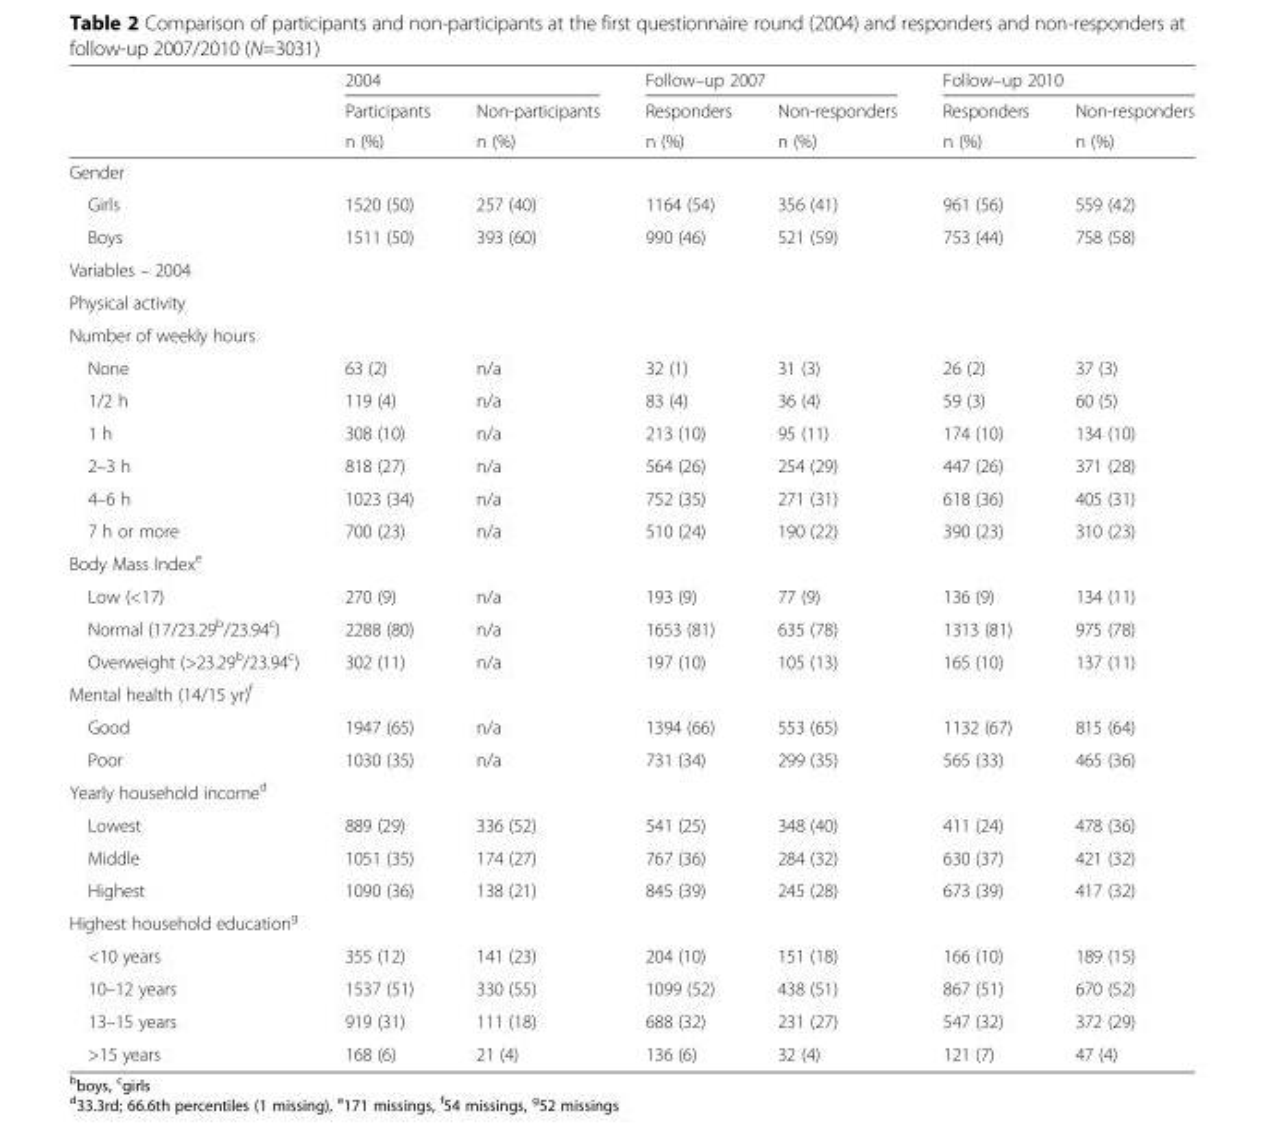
<table><thead><tr><td rowspan="3"></td><td colspan="2">2004</td><td colspan="2">Follow–up 2007</td><td colspan="2">Follow–up 2010</td></tr><tr><td rowspan="2">Participants n (%)</td><td rowspan="2">Non-participants n (%)</td><td rowspan="2">Responders n (%)</td><td rowspan="2">Non-responders n (%)</td><td rowspan="2">Responders n (%)</td><td rowspan="2">Non-responders n (%)</td></tr><tr></tr></thead><tbody><tr><td colspan="7">Gender</td></tr><tr><td>Girls</td><td>1520 (50)</td><td>257 (40)</td><td>1164 (54)</td><td>356 (41)</td><td>961 (56)</td><td>559 (42)</td></tr><tr><td>Boys</td><td>1511 (50)</td><td>393 (60)</td><td>990 (46)</td><td>521 (59)</td><td>753 (44)</td><td>758 (58)</td></tr><tr><td colspan="7">Variables – 2004</td></tr><tr><td colspan="7">Physical activity</td></tr><tr><td colspan="7">Number of weekly hours</td></tr><tr><td>None</td><td>63 (2)</td><td>n/a</td><td>32 (1)</td><td>31 (3)</td><td>26 (2)</td><td>37 (3)</td></tr><tr><td>1/2 h</td><td>119 (4)</td><td>n/a</td><td>83 (4)</td><td>36 (4)</td><td>59 (3)</td><td>60 (5)</td></tr><tr><td>1 h</td><td>308 (10)</td><td>n/a</td><td>213 (10)</td><td>95 (11)</td><td>174 (10)</td><td>134 (10)</td></tr><tr><td>2–3 h</td><td>818 (27)</td><td>n/a</td><td>564 (26)</td><td>254 (29)</td><td>447 (26)</td><td>371 (28)</td></tr><tr><td>4–6 h</td><td>1023 (34)</td><td>n/a</td><td>752 (35)</td><td>271 (31)</td><td>618 (36)</td><td>405 (31)</td></tr><tr><td>7 h or more</td><td>700 (23)</td><td>n/a</td><td>510 (24)</td><td>190 (22)</td><td>390 (23)</td><td>310 (23)</td></tr><tr><td colspan="7">Body Mass Index<sup>e</sup></td></tr><tr><td>Low (&lt;17)</td><td>270 (9)</td><td>n/a</td><td>193 (9)</td><td>77 (9)</td><td>136 (9)</td><td>134 (11)</td></tr><tr><td>Normal (17/23.29<sup>b</sup>/23.94<sup>c</sup>)</td><td>2288 (80)</td><td>n/a</td><td>1653 (81)</td><td>635 (78)</td><td>1313 (81)</td><td>975 (78)</td></tr><tr><td>Overweight (&gt;23.29<sup>b</sup>/23.94<sup>c</sup>)</td><td>302 (11)</td><td>n/a</td><td>197 (10)</td><td>105 (13)</td><td>165 (10)</td><td>137 (11)</td></tr><tr><td colspan="7">Mental health (14/15 yr)<sup>f</sup></td></tr><tr><td>Good</td><td>1947 (65)</td><td>n/a</td><td>1394 (66)</td><td>553 (65)</td><td>1132 (67)</td><td>815 (64)</td></tr><tr><td>Poor</td><td>1030 (35)</td><td>n/a</td><td>731 (34)</td><td>299 (35)</td><td>565 (33)</td><td>465 (36)</td></tr><tr><td colspan="7">Yearly household income<sup>d</sup></td></tr><tr><td>Lowest</td><td>889 (29)</td><td>336 (52)</td><td>541 (25)</td><td>348 (40)</td><td>411 (24)</td><td>478 (36)</td></tr><tr><td>Middle</td><td>1051 (35)</td><td>174 (27)</td><td>767 (36)</td><td>284 (32)</td><td>630 (37)</td><td>421 (32)</td></tr><tr><td>Highest</td><td>1090 (36)</td><td>138 (21)</td><td>845 (39)</td><td>245 (28)</td><td>673 (39)</td><td>417 (32)</td></tr><tr><td colspan="7">Highest household education<sup>g</sup></td></tr><tr><td>&lt;10 years</td><td>355 (12)</td><td>141 (23)</td><td>204 (10)</td><td>151 (18)</td><td>166 (10)</td><td>189 (15)</td></tr><tr><td>10–12 years</td><td>1537 (51)</td><td>330 (55)</td><td>1099 (52)</td><td>438 (51)</td><td>867 (51)</td><td>670 (52)</td></tr><tr><td>13–15 years</td><td>919 (31)</td><td>111 (18)</td><td>688 (32)</td><td>231 (27)</td><td>547 (32)</td><td>372 (29)</td></tr><tr><td>&gt;15 years</td><td>168 (6)</td><td>21 (4)</td><td>136 (6)</td><td>32 (4)</td><td>121 (7)</td><td>47 (4)</td></tr></tbody></table>